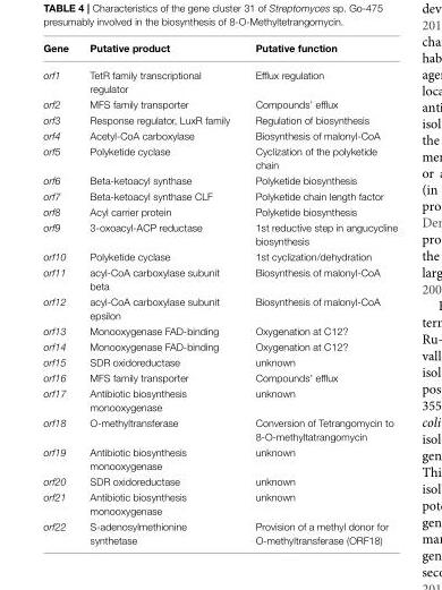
<table><thead><tr><td>Gene</td><td>Putative product</td><td>Putative function</td></tr></thead><tbody><tr><td>orf1</td><td>TetR family transcriptional regulator</td><td>Efflux regulation</td></tr><tr><td>orf2</td><td>MFS family transporter</td><td>Compounds’ efflux</td></tr><tr><td>orf3</td><td>Response regulator, LuxR family</td><td>Regulation of biosynthesis</td></tr><tr><td>orf4</td><td>Acetyl-CoA carboxylase</td><td>Biosynthesis of malonyl-CoA</td></tr><tr><td>orf5</td><td>Polyketide cyclase</td><td>Cyclization of the polyketide chain</td></tr><tr><td>orf6</td><td>Beta-ketoacyl synthase</td><td>Polyketide biosynthesis</td></tr><tr><td>orf7</td><td>Beta-ketoacyl synthase CLF</td><td>Polyketide chain length factor</td></tr><tr><td>orf8</td><td>Acyl carrier protein</td><td>Polyketide biosynthesis</td></tr><tr><td>orf9</td><td>3-oxoacyl-ACP reductase</td><td>1st reductive step in angucycline biosynthesis</td></tr><tr><td>orf10</td><td>Polyketide cyclase</td><td>1st cyclization/dehydration</td></tr><tr><td>orf11</td><td>acyl-CoA carboxylase subunit beta</td><td>Biosynthesis of malonyl-CoA</td></tr><tr><td>orf12</td><td>acyl-CoA carboxylase subunit epsilon</td><td>Biosynthesis of malonyl-CoA</td></tr><tr><td>orf13</td><td>Monooxygenase FAD-binding</td><td>Oxygenation at C12?</td></tr><tr><td>orf14</td><td>Monooxygenase FAD-binding</td><td>Oxygenation at C12?</td></tr><tr><td>orf15</td><td>SDR oxidoreductase</td><td>unknown</td></tr><tr><td>orf16</td><td>MFS family transporter</td><td>Compounds’ efflux</td></tr><tr><td>orf17</td><td>Antibiotic biosynthesis monooxygenase</td><td>unknown</td></tr><tr><td>orf18</td><td>O-methyltransferase</td><td>Conversion of Tetrangomycin to 8-O-methyltatrangomycin</td></tr><tr><td>orf19</td><td>Antibiotic biosynthesis monooxygenase</td><td>unknown</td></tr><tr><td>orf20</td><td>SDR oxidoreductase</td><td>unknown</td></tr><tr><td>orf21</td><td>Antibiotic biosynthesis monooxygenase</td><td>unknown</td></tr><tr><td>orf22</td><td>S-adenosylmethionine synthetase</td><td>Provision of a methyl donor for O-methyltransferase (ORF18)</td></tr></tbody></table>